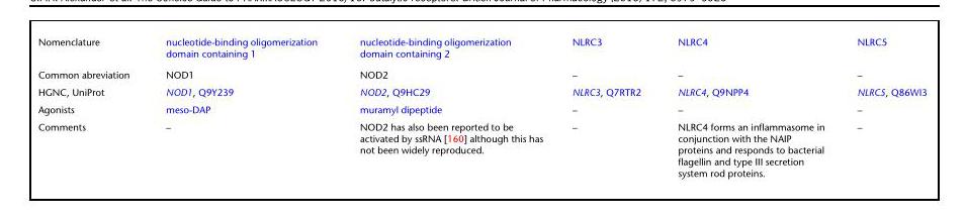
<table><tbody><tr><td>Nomenclature</td><td>nucleotide-binding oligomerization domain containing 1</td><td>nucleotide-binding oligomerization domain containing 2</td><td>NLRC3</td><td>NLRC4</td><td>NLRC5</td></tr><tr><td>Common abreviation</td><td>NOD1</td><td>NOD2</td><td>–</td><td>–</td><td>–</td></tr><tr><td>HGNC, UniProt</td><td>NOD1, Q9Y239</td><td>NOD2, Q9HC29</td><td>NLRC3, Q7RTR2</td><td>NLRC4, Q9NPP4</td><td>NLRC5, Q86WI3</td></tr><tr><td>Agonists</td><td>meso-DAP</td><td>muramyl dipeptide</td><td>–</td><td>–</td><td>–</td></tr><tr><td>Comments</td><td>–</td><td>NOD2 has also been reported to be activated by ssRNA [160] although this has not been widely reproduced.</td><td>–</td><td>NLRC4 forms an inflammasome in conjunction with the NAIP proteins and responds to bacterial flagellin and type III secretion system rod proteins.</td><td>–</td></tr></tbody></table>